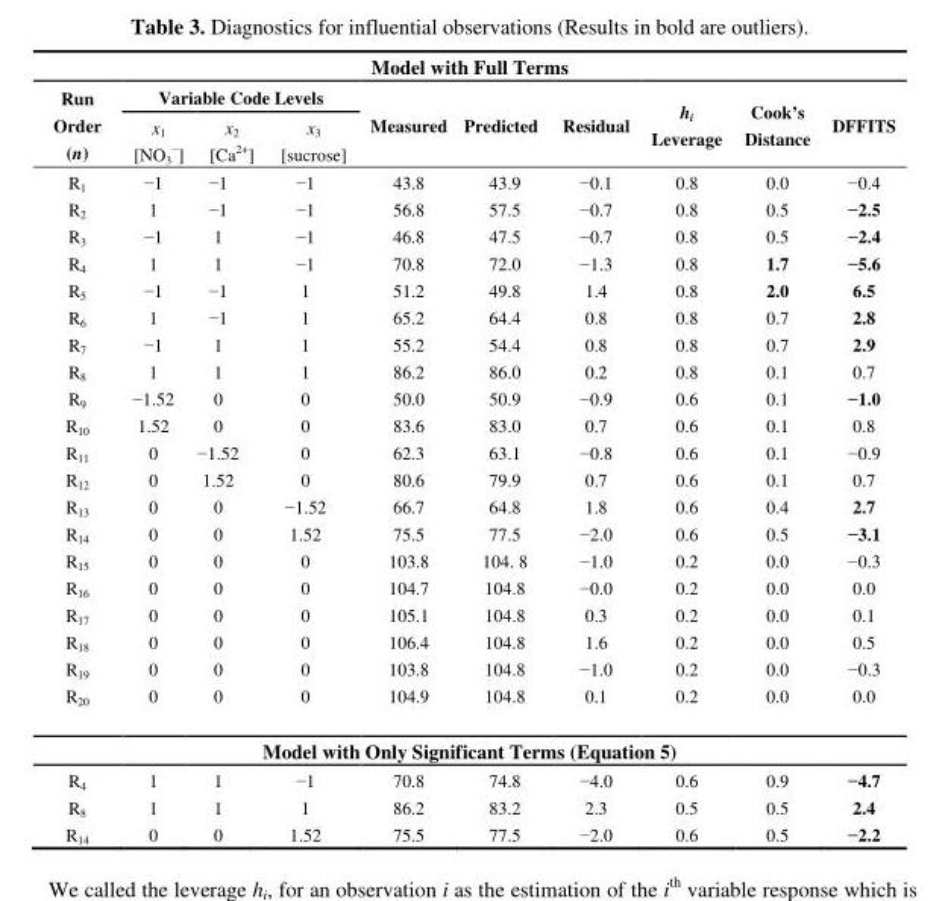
<table><thead><tr><td colspan="10">Model with Full Terms</td></tr><tr><td rowspan="2">Run Order (n)</td><td colspan="3">Variable Code Levels</td><td rowspan="2">Measured</td><td rowspan="2">Predicted</td><td rowspan="2">Residual</td><td rowspan="2">h<sub>i</sub> Leverage</td><td rowspan="2">Cook’s Distance</td><td rowspan="2">DFFITS</td></tr><tr><td>x<sub>1</sub> [NO<sub>3</sub> <sup>−</sup>]</td><td>x<sub>2</sub> [Ca<sup>2+</sup>]</td><td>x<sub>3</sub> [sucrose]</td></tr></thead><tbody><tr><td>R<sub>1</sub></td><td>−1</td><td>−1</td><td>−1</td><td>43.8</td><td>43.9</td><td>−0.1</td><td>0.8</td><td>0.0</td><td>−0.4</td></tr><tr><td>R<sub>2</sub></td><td>1</td><td>−1</td><td>−1</td><td>56.8</td><td>57.5</td><td>−0.7</td><td>0.8</td><td>0.5</td><td>−2.5</td></tr><tr><td>R<sub>3</sub></td><td>−1</td><td>1</td><td>−1</td><td>46.8</td><td>47.5</td><td>−0.7</td><td>0.8</td><td>0.5</td><td>−2.4</td></tr><tr><td>R<sub>4</sub></td><td>1</td><td>1</td><td>−1</td><td>70.8</td><td>72.0</td><td>−1.3</td><td>0.8</td><td>1.7</td><td>−5.6</td></tr><tr><td>R<sub>5</sub></td><td>−1</td><td>−1</td><td>1</td><td>51.2</td><td>49.8</td><td>1.4</td><td>0.8</td><td>2.0</td><td>6.5</td></tr><tr><td>R<sub>6</sub></td><td>1</td><td>−1</td><td>1</td><td>65.2</td><td>64.4</td><td>0.8</td><td>0.8</td><td>0.7</td><td>2.8</td></tr><tr><td>R<sub>7</sub></td><td>−1</td><td>1</td><td>1</td><td>55.2</td><td>54.4</td><td>0.8</td><td>0.8</td><td>0.7</td><td>2.9</td></tr><tr><td>R<sub>8</sub></td><td>1</td><td>1</td><td>1</td><td>86.2</td><td>86.0</td><td>0.2</td><td>0.8</td><td>0.1</td><td>0.7</td></tr><tr><td>R<sub>9</sub></td><td>−1.52</td><td>0</td><td>0</td><td>50.0</td><td>50.9</td><td>−0.9</td><td>0.6</td><td>0.1</td><td>−1.0</td></tr><tr><td>R<sub>10</sub></td><td>1.52</td><td>0</td><td>0</td><td>83.6</td><td>83.0</td><td>0.7</td><td>0.6</td><td>0.1</td><td>0.8</td></tr><tr><td>R<sub>11</sub></td><td>0</td><td>−1.52</td><td>0</td><td>62.3</td><td>63.1</td><td>−0.8</td><td>0.6</td><td>0.1</td><td>−0.9</td></tr><tr><td>R<sub>12</sub></td><td>0</td><td>1.52</td><td>0</td><td>80.6</td><td>79.9</td><td>0.7</td><td>0.6</td><td>0.1</td><td>0.7</td></tr><tr><td>R<sub>13</sub></td><td>0</td><td>0</td><td>−1.52</td><td>66.7</td><td>64.8</td><td>1.8</td><td>0.6</td><td>0.4</td><td>2.7</td></tr><tr><td>R<sub>14</sub></td><td>0</td><td>0</td><td>1.52</td><td>75.5</td><td>77.5</td><td>−2.0</td><td>0.6</td><td>0.5</td><td>−3.1</td></tr><tr><td>R<sub>15</sub></td><td>0</td><td>0</td><td>0</td><td>103.8</td><td>104. 8</td><td>−1.0</td><td>0.2</td><td>0.0</td><td>−0.3</td></tr><tr><td>R<sub>16</sub></td><td>0</td><td>0</td><td>0</td><td>104.7</td><td>104.8</td><td>−0.0</td><td>0.2</td><td>0.0</td><td>0.0</td></tr><tr><td>R<sub>17</sub></td><td>0</td><td>0</td><td>0</td><td>105.1</td><td>104.8</td><td>0.3</td><td>0.2</td><td>0.0</td><td>0.1</td></tr><tr><td>R<sub>18</sub></td><td>0</td><td>0</td><td>0</td><td>106.4</td><td>104.8</td><td>1.6</td><td>0.2</td><td>0.0</td><td>0.5</td></tr><tr><td>R<sub>19</sub></td><td>0</td><td>0</td><td>0</td><td>103.8</td><td>104.8</td><td>−1.0</td><td>0.2</td><td>0.0</td><td>−0.3</td></tr><tr><td>R<sub>20</sub></td><td>0</td><td>0</td><td>0</td><td>104.9</td><td>104.8</td><td>0.1</td><td>0.2</td><td>0.0</td><td>0.0</td></tr><tr><td colspan="10">Model with Only Significant Terms (Equation 5)</td></tr><tr><td>R<sub>4</sub></td><td>1</td><td>1</td><td>−1</td><td>70.8</td><td>74.8</td><td>−4.0</td><td>0.6</td><td>0.9</td><td>−4.7</td></tr><tr><td>R<sub>8</sub></td><td>1</td><td>1</td><td>1</td><td>86.2</td><td>83.2</td><td>2.3</td><td>0.5</td><td>0.5</td><td>2.4</td></tr><tr><td>R<sub>14</sub></td><td>0</td><td>0</td><td>1.52</td><td>75.5</td><td>77.5</td><td>−2.0</td><td>0.6</td><td>0.5</td><td>−2.2</td></tr></tbody></table>